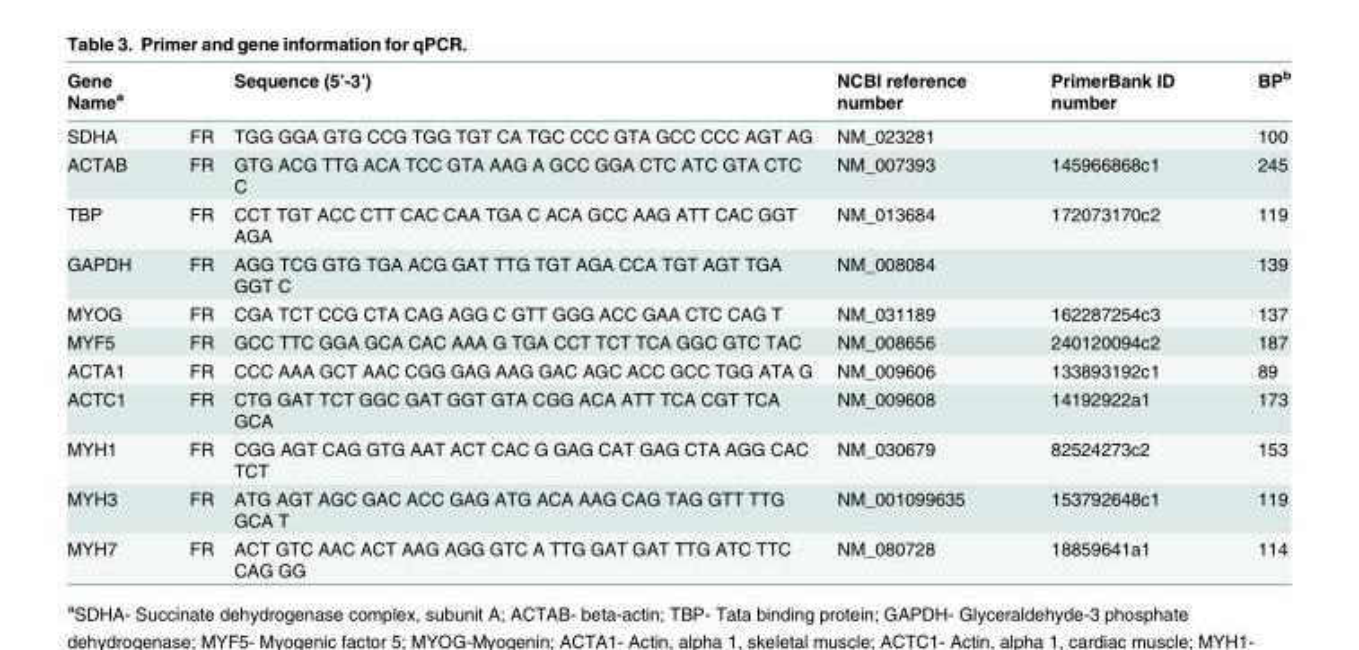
<table><thead><tr><td>Gene Name<sup>a</sup></td><td></td><td>Sequence (5’-3’)</td><td>NCBI reference number</td><td>PrimerBank ID number</td><td>BP<sup>b</sup></td></tr></thead><tbody><tr><td>SDHA</td><td>FR</td><td>TGG GGA GTG CCG TGG TGT CA TGC CCC GTA GCC CCC AGT AG</td><td>NM_023281</td><td></td><td>100</td></tr><tr><td>ACTAB</td><td>FR</td><td>GTG ACG TTG ACA TCC GTA AAG A GCC GGA CTC ATC GTA CTC C</td><td>NM_007393</td><td>145966868c1</td><td>245</td></tr><tr><td>TBP</td><td>FR</td><td>CCT TGT ACC CTT CAC CAA TGA C ACA GCC AAG ATT CAC GGT AGA</td><td>NM_013684</td><td>172073170c2</td><td>119</td></tr><tr><td>GAPDH</td><td>FR</td><td>AGG TCG GTG TGA ACG GAT TTG TGT AGA CCA TGT AGT TGA GGT C</td><td>NM_008084</td><td></td><td>139</td></tr><tr><td>MYOG</td><td>FR</td><td>CGA TCT CCG CTA CAG AGG C GTT GGG ACC GAA CTC CAG T</td><td>NM_031189</td><td>162287254c3</td><td>137</td></tr><tr><td>MYF5</td><td>FR</td><td>GCC TTC GGA GCA CAC AAA G TGA CCT TCT TCA GGC GTC TAC</td><td>NM_008656</td><td>240120094c2</td><td>187</td></tr><tr><td>ACTA1</td><td>FR</td><td>CCC AAA GCT AAC CGG GAG AAG GAC AGC ACC GCC TGG ATA G</td><td>NM_009606</td><td>133893192c1</td><td>89</td></tr><tr><td>ACTC1</td><td>FR</td><td>CTG GAT TCT GGC GAT GGT GTA CGG ACA ATT TCA CGT TCA GCA</td><td>NM_009608</td><td>14192922a1</td><td>173</td></tr><tr><td>MYH1</td><td>FR</td><td>CGG AGT CAG GTG AAT ACT CAC G GAG CAT GAG CTA AGG CAC TCT</td><td>NM_030679</td><td>82524273c2</td><td>153</td></tr><tr><td>MYH3</td><td>FR</td><td>ATG AGT AGC GAC ACC GAG ATG ACA AAG CAG TAG GTT TTG GCA T</td><td>NM_001099635</td><td>153792648c1</td><td>119</td></tr><tr><td>MYH7</td><td>FR</td><td>ACT GTC AAC ACT AAG AGG GTC A TTG GAT GAT TTG ATC TTC CAG GG</td><td>NM_080728</td><td>18859641a1</td><td>114</td></tr></tbody></table>